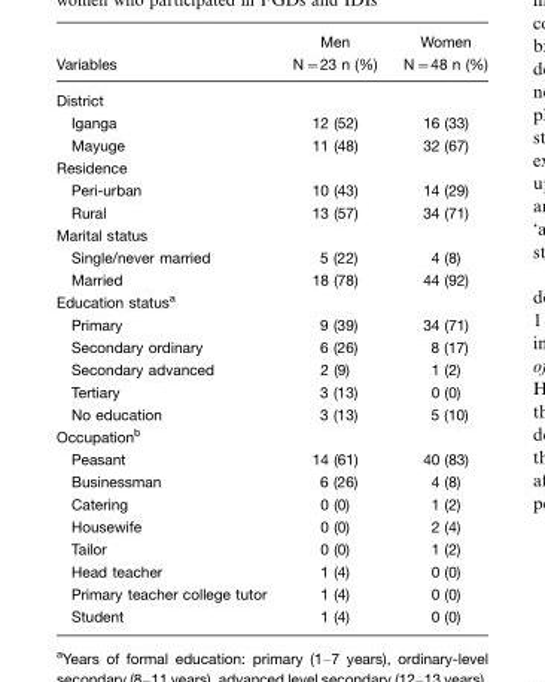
<table><thead><tr><td>Variables</td><td>N�23 n (%)</td><td>N�48 n (%)</td></tr></thead><tbody><tr><td colspan="3">District</td></tr><tr><td>Iganga</td><td>12 (52)</td><td>16 (33)</td></tr><tr><td>Mayuge</td><td>11 (48)</td><td>32 (67)</td></tr><tr><td colspan="3">Residence</td></tr><tr><td>Peri-urban</td><td>10 (43)</td><td>14 (29)</td></tr><tr><td>Rural</td><td>13 (57)</td><td>34 (71)</td></tr><tr><td colspan="3">Marital status</td></tr><tr><td>Single/never married</td><td>5 (22)</td><td>4 (8)</td></tr><tr><td>Married</td><td>18 (78)</td><td>44 (92)</td></tr><tr><td colspan="3">Education statusa</td></tr><tr><td>Primary</td><td>9 (39)</td><td>34 (71)</td></tr><tr><td>Secondary ordinary</td><td>6 (26)</td><td>8 (17)</td></tr><tr><td>Secondary advanced</td><td>2 (9)</td><td>1 (2)</td></tr><tr><td>Tertiary</td><td>3 (13)</td><td>0 (0)</td></tr><tr><td>No education</td><td>3 (13)</td><td>5 (10)</td></tr><tr><td colspan="3">Occupationb</td></tr><tr><td>Peasant</td><td>14 (61)</td><td>40 (83)</td></tr><tr><td>Businessman</td><td>6 (26)</td><td>4 (8)</td></tr><tr><td>Catering</td><td>0 (0)</td><td>1 (2)</td></tr><tr><td>Housewife</td><td>0 (0)</td><td>2 (4)</td></tr><tr><td>Tailor</td><td>0 (0)</td><td>1 (2)</td></tr><tr><td>Head teacher</td><td>1 (4)</td><td>0 (0)</td></tr><tr><td>Primary teacher college tutor</td><td>1 (4)</td><td>0 (0)</td></tr><tr><td>Student</td><td>1 (4)</td><td>0 (0)</td></tr></tbody></table>